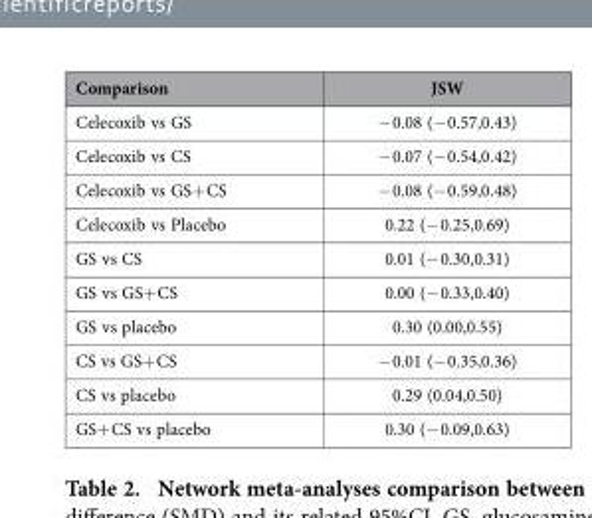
<table><thead><tr><td>Comparison</td><td>JSW</td></tr></thead><tbody><tr><td>Celecoxib vs GS</td><td>− 0.08 (− 0.57,0.43)</td></tr><tr><td>Celecoxib vs CS</td><td>− 0.07 (− 0.54,0.42)</td></tr><tr><td>Celecoxib vs GS+ CS</td><td>− 0.08 (− 0.59,0.48)</td></tr><tr><td>Celecoxib vs Placebo</td><td>0.22 (− 0.25,0.69)</td></tr><tr><td>GS vs CS</td><td>0.01 (− 0.30,0.31)</td></tr><tr><td>GS vs GS+ CS</td><td>0.00 (− 0.33,0.40)</td></tr><tr><td>GS vs placebo</td><td>0.30 (0.00,0.55)</td></tr><tr><td>CS vs GS+ CS</td><td>− 0.01 (− 0.35,0.36)</td></tr><tr><td>CS vs placebo</td><td>0.29 (0.04,0.50)</td></tr><tr><td>GS+ CS vs placebo</td><td>0.30 (− 0.09,0.63)</td></tr></tbody></table>